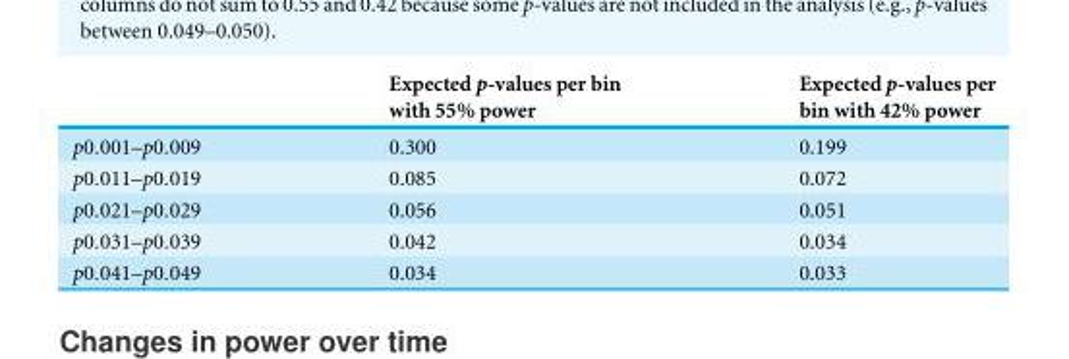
<table><thead><tr><td></td><td>Expected p-values per bin with 55% power</td><td>Expected p-values per bin with 42% power</td></tr></thead><tbody><tr><td>p0.001–p0.009</td><td>0.300</td><td>0.199</td></tr><tr><td>p0.011–p0.019</td><td>0.085</td><td>0.072</td></tr><tr><td>p0.021–p0.029</td><td>0.056</td><td>0.051</td></tr><tr><td>p0.031–p0.039</td><td>0.042</td><td>0.034</td></tr><tr><td>p0.041–p0.049</td><td>0.034</td><td>0.033</td></tr></tbody></table>